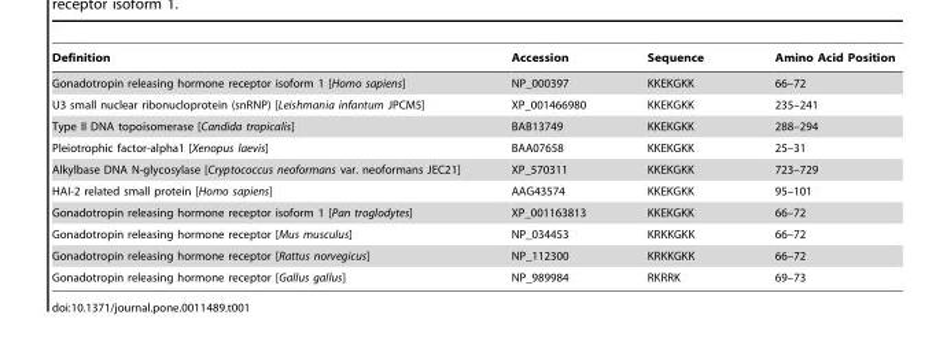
<table><thead><tr><td>Definition</td><td>Accession</td><td>Sequence</td><td>Amino Acid Position</td></tr></thead><tbody><tr><td>Gonadotropin releasing hormone receptor isoform 1 [Homo sapiens]</td><td>NP_000397</td><td>KKEKGKK</td><td>66–72</td></tr><tr><td>U3 small nuclear ribonucloprotein (snRNP) [Leishmania infantum JPCM5]</td><td>XP_001466980</td><td>KKEKGKK</td><td>235–241</td></tr><tr><td>Type II DNA topoisomerase [Candida tropicalis]</td><td>BAB13749</td><td>KKEKGKK</td><td>288–294</td></tr><tr><td>Pleiotrophic factor-alpha1 [Xenopus laevis]</td><td>BAA07658</td><td>KKEKGKK</td><td>25–31</td></tr><tr><td>Alkylbase DNA N-glycosylase [Cryptococcus neoformans var. neoformans JEC21]</td><td>XP_570311</td><td>KKEKGKK</td><td>723–729</td></tr><tr><td>HAI-2 related small protein [Homo sapiens]</td><td>AAG43574</td><td>KKEKGKK</td><td>95–101</td></tr><tr><td>Gonadotropin releasing hormone receptor isoform 1 [Pan troglodytes]</td><td>XP_001163813</td><td>KKEKGKK</td><td>66–72</td></tr><tr><td>Gonadotropin releasing hormone receptor [Mus musculus]</td><td>NP_034453</td><td>KRKKGKK</td><td>66–72</td></tr><tr><td>Gonadotropin releasing hormone receptor [Rattus norvegicus]</td><td>NP_112300</td><td>KRKKGKK</td><td>66–72</td></tr><tr><td>Gonadotropin releasing hormone receptor [Gallus gallus]</td><td>NP_989984</td><td>RKRRK</td><td>69–73</td></tr></tbody></table>